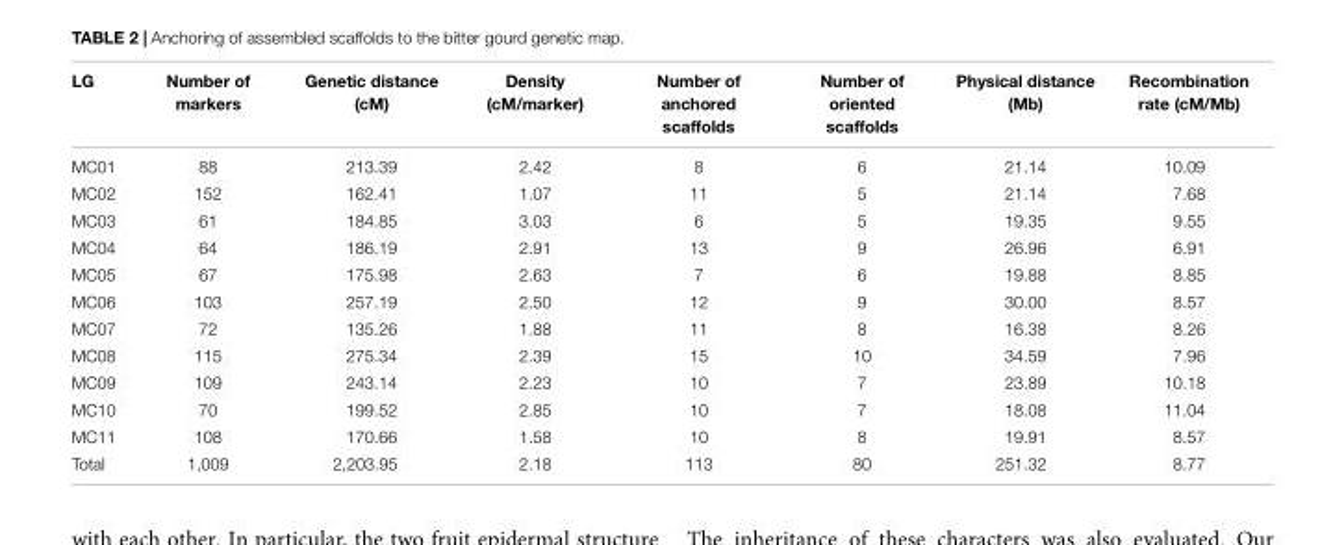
<table><thead><tr><td>LG</td><td>Number of markers</td><td>Genetic distance (cM)</td><td>Density (cM/marker)</td><td>Number of anchored scaffolds</td><td>Number of oriented scaffolds</td><td>Physical distance (Mb)</td><td>Recombination rate (cM/Mb)</td></tr></thead><tbody><tr><td>MC01</td><td>88</td><td>213.39</td><td>2.42</td><td>8</td><td>6</td><td>21.14</td><td>10.09</td></tr><tr><td>MC02</td><td>152</td><td>162.41</td><td>1.07</td><td>11</td><td>5</td><td>21.14</td><td>7.68</td></tr><tr><td>MC03</td><td>61</td><td>184.85</td><td>3.03</td><td>6</td><td>5</td><td>19.35</td><td>9.55</td></tr><tr><td>MC04</td><td>64</td><td>186.19</td><td>2.91</td><td>13</td><td>9</td><td>26.96</td><td>6.91</td></tr><tr><td>MC05</td><td>67</td><td>175.98</td><td>2.63</td><td>7</td><td>6</td><td>19.88</td><td>8.85</td></tr><tr><td>MC06</td><td>103</td><td>257.19</td><td>2.50</td><td>12</td><td>9</td><td>30.00</td><td>8.57</td></tr><tr><td>MC07</td><td>72</td><td>135.26</td><td>1.88</td><td>11</td><td>8</td><td>16.38</td><td>8.26</td></tr><tr><td>MC08</td><td>115</td><td>275.34</td><td>2.39</td><td>15</td><td>10</td><td>34.59</td><td>7.96</td></tr><tr><td>MC09</td><td>109</td><td>243.14</td><td>2.23</td><td>10</td><td>7</td><td>23.89</td><td>10.18</td></tr><tr><td>MC10</td><td>70</td><td>199.52</td><td>2.85</td><td>10</td><td>7</td><td>18.08</td><td>11.04</td></tr><tr><td>MC11</td><td>108</td><td>170.66</td><td>1.58</td><td>10</td><td>8</td><td>19.91</td><td>8.57</td></tr><tr><td>Total</td><td>1,009</td><td>2,203.95</td><td>2.18</td><td>113</td><td>80</td><td>251.32</td><td>8.77</td></tr></tbody></table>